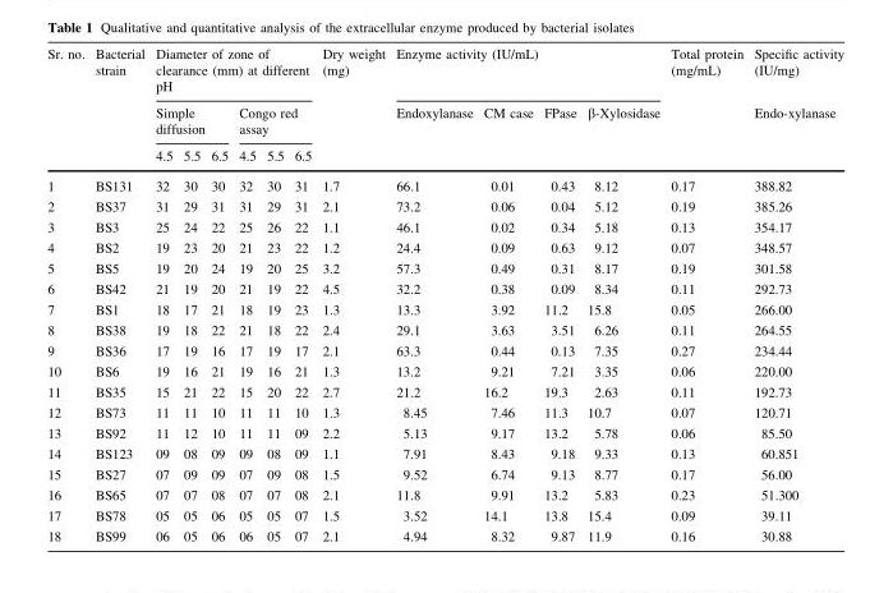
<table><thead><tr><td rowspan="3">Sr. no.</td><td rowspan="3">Bacterial strain</td><td colspan="6">Diameter of zone of clearance (mm) at different pH</td><td rowspan="3">Dry weight (mg)</td><td colspan="4">Enzyme activity (IU/mL)</td><td rowspan="3">Total protein (mg/mL)</td><td rowspan="3">Specific activity (IU/mg) Endo-xylanase</td></tr><tr><td colspan="3">Simple diffusion</td><td colspan="3">Congo red assay</td><td rowspan="2">Endoxylanase</td><td rowspan="2">CM case</td><td rowspan="2">FPase</td><td rowspan="2">β-Xylosidase</td></tr><tr><td>4.5</td><td>5.5</td><td>6.5</td><td>4.5</td><td>5.5</td><td>6.5</td></tr></thead><tbody><tr><td>1</td><td>BS131</td><td>32</td><td>30</td><td>30</td><td>32</td><td>30</td><td>31</td><td>1.7</td><td>66.1</td><td>0.01</td><td>0.43</td><td>8.12</td><td>0.17</td><td>388.82</td></tr><tr><td>2</td><td>BS37</td><td>31</td><td>29</td><td>31</td><td>31</td><td>29</td><td>31</td><td>2.1</td><td>73.2</td><td>0.06</td><td>0.04</td><td>5.12</td><td>0.19</td><td>385.26</td></tr><tr><td>3</td><td>BS3</td><td>25</td><td>24</td><td>22</td><td>25</td><td>26</td><td>22</td><td>1.1</td><td>46.1</td><td>0.02</td><td>0.34</td><td>5.18</td><td>0.13</td><td>354.17</td></tr><tr><td>4</td><td>BS2</td><td>19</td><td>23</td><td>20</td><td>21</td><td>23</td><td>22</td><td>1.2</td><td>24.4</td><td>0.09</td><td>0.63</td><td>9.12</td><td>0.07</td><td>348.57</td></tr><tr><td>5</td><td>BS5</td><td>19</td><td>20</td><td>24</td><td>19</td><td>20</td><td>25</td><td>3.2</td><td>57.3</td><td>0.49</td><td>0.31</td><td>8.17</td><td>0.19</td><td>301.58</td></tr><tr><td>6</td><td>BS42</td><td>21</td><td>19</td><td>20</td><td>21</td><td>19</td><td>22</td><td>4.5</td><td>32.2</td><td>0.38</td><td>0.09</td><td>8.34</td><td>0.11</td><td>292.73</td></tr><tr><td>7</td><td>BS1</td><td>18</td><td>17</td><td>21</td><td>18</td><td>19</td><td>23</td><td>1.3</td><td>13.3</td><td>3.92</td><td>11.2</td><td>15.8</td><td>0.05</td><td>266.00</td></tr><tr><td>8</td><td>BS38</td><td>19</td><td>18</td><td>22</td><td>21</td><td>18</td><td>22</td><td>2.4</td><td>29.1</td><td>3.63</td><td>3.51</td><td>6.26</td><td>0.11</td><td>264.55</td></tr><tr><td>9</td><td>BS36</td><td>17</td><td>19</td><td>16</td><td>17</td><td>19</td><td>17</td><td>2.1</td><td>63.3</td><td>0.44</td><td>0.13</td><td>7.35</td><td>0.27</td><td>234.44</td></tr><tr><td>10</td><td>BS6</td><td>19</td><td>16</td><td>21</td><td>19</td><td>16</td><td>21</td><td>1.3</td><td>13.2</td><td>9.21</td><td>7.21</td><td>3.35</td><td>0.06</td><td>220.00</td></tr><tr><td>11</td><td>BS35</td><td>15</td><td>21</td><td>22</td><td>15</td><td>20</td><td>22</td><td>2.7</td><td>21.2</td><td>16.2</td><td>19.3</td><td>2.63</td><td>0.11</td><td>192.73</td></tr><tr><td>12</td><td>BS73</td><td>11</td><td>11</td><td>10</td><td>11</td><td>11</td><td>10</td><td>1.3</td><td>8.45</td><td>7.46</td><td>11.3</td><td>10.7</td><td>0.07</td><td>120.71</td></tr><tr><td>13</td><td>BS92</td><td>11</td><td>12</td><td>10</td><td>11</td><td>11</td><td>09</td><td>2.2</td><td>5.13</td><td>9.17</td><td>13.2</td><td>5.78</td><td>0.06</td><td>85.50</td></tr><tr><td>14</td><td>BS123</td><td>09</td><td>08</td><td>09</td><td>09</td><td>08</td><td>09</td><td>1.1</td><td>7.91</td><td>8.43</td><td>9.18</td><td>9.33</td><td>0.13</td><td>60.851</td></tr><tr><td>15</td><td>BS27</td><td>07</td><td>09</td><td>09</td><td>07</td><td>09</td><td>08</td><td>1.5</td><td>9.52</td><td>6.74</td><td>9.13</td><td>8.77</td><td>0.17</td><td>56.00</td></tr><tr><td>16</td><td>BS65</td><td>07</td><td>07</td><td>08</td><td>07</td><td>07</td><td>08</td><td>2.1</td><td>11.8</td><td>9.91</td><td>13.2</td><td>5.83</td><td>0.23</td><td>51.300</td></tr><tr><td>17</td><td>BS78</td><td>05</td><td>05</td><td>06</td><td>05</td><td>05</td><td>07</td><td>1.5</td><td>3.52</td><td>14.1</td><td>13.8</td><td>15.4</td><td>0.09</td><td>39.11</td></tr><tr><td>18</td><td>BS99</td><td>06</td><td>05</td><td>06</td><td>06</td><td>05</td><td>07</td><td>2.1</td><td>4.94</td><td>8.32</td><td>9.87</td><td>11.9</td><td>0.16</td><td>30.88</td></tr></tbody></table>